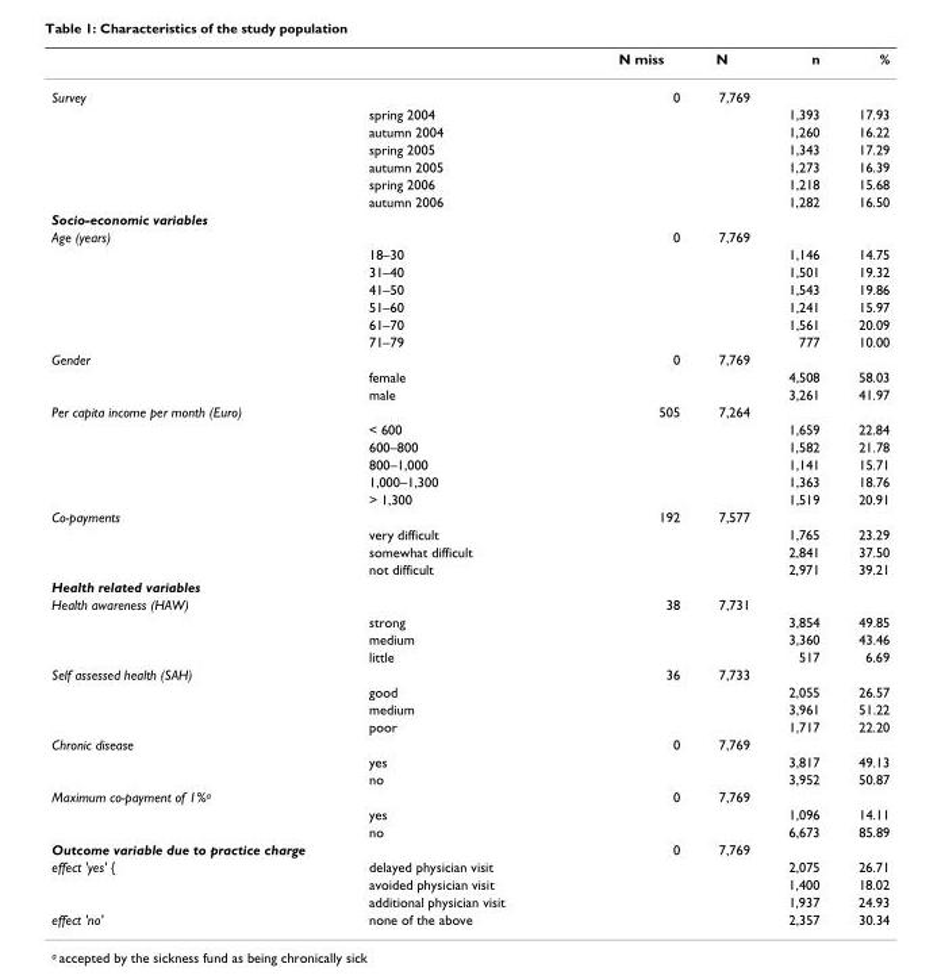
<table><thead><tr><td></td><td></td><td>N miss</td><td>N</td><td>n</td><td>%</td></tr></thead><tbody><tr><td rowspan="7">Survey</td><td></td><td>0</td><td>7,769</td><td></td><td></td></tr><tr><td>spring 2004</td><td></td><td></td><td>1,393</td><td>17.93</td></tr><tr><td>autumn 2004</td><td></td><td></td><td>1,260</td><td>16.22</td></tr><tr><td>spring 2005</td><td></td><td></td><td>1,343</td><td>17.29</td></tr><tr><td>autumn 2005</td><td></td><td></td><td>1,273</td><td>16.39</td></tr><tr><td>spring 2006</td><td></td><td></td><td>1,218</td><td>15.68</td></tr><tr><td>autumn 2006</td><td></td><td></td><td>1,282</td><td>16.50</td></tr><tr><td colspan="6">Socio-economic variables</td></tr><tr><td rowspan="7">Age (years)</td><td></td><td>0</td><td>7,769</td><td></td><td></td></tr><tr><td>18–30</td><td></td><td></td><td>1,146</td><td>14.75</td></tr><tr><td>31–40</td><td></td><td></td><td>1,501</td><td>19.32</td></tr><tr><td>41–50</td><td></td><td></td><td>1,543</td><td>19.86</td></tr><tr><td>51–60</td><td></td><td></td><td>1,241</td><td>15.97</td></tr><tr><td>61–70</td><td></td><td></td><td>1,561</td><td>20.09</td></tr><tr><td>71–79</td><td></td><td></td><td>777</td><td>10.00</td></tr><tr><td rowspan="3">Gender</td><td></td><td>0</td><td>7,769</td><td></td><td></td></tr><tr><td>female</td><td></td><td></td><td>4,508</td><td>58.03</td></tr><tr><td>male</td><td></td><td></td><td>3,261</td><td>41.97</td></tr><tr><td rowspan="6">Per capita income per month (Euro)</td><td></td><td>505</td><td>7,264</td><td></td><td></td></tr><tr><td>&lt; 600</td><td></td><td></td><td>1,659</td><td>22.84</td></tr><tr><td>600–800</td><td></td><td></td><td>1,582</td><td>21.78</td></tr><tr><td>800–1,000</td><td></td><td></td><td>1,141</td><td>15.71</td></tr><tr><td>1,000–1,300</td><td></td><td></td><td>1,363</td><td>18.76</td></tr><tr><td>&gt; 1,300</td><td></td><td></td><td>1,519</td><td>20.91</td></tr><tr><td rowspan="4">Co-payments</td><td></td><td>192</td><td>7,577</td><td></td><td></td></tr><tr><td>very difficult</td><td></td><td></td><td>1,765</td><td>23.29</td></tr><tr><td>somewhat difficult</td><td></td><td></td><td>2,841</td><td>37.50</td></tr><tr><td>not difficult</td><td></td><td></td><td>2,971</td><td>39.21</td></tr><tr><td colspan="6">Health related variables</td></tr><tr><td rowspan="4">Health awareness (HAW)</td><td></td><td>38</td><td>7,731</td><td></td><td></td></tr><tr><td>strong</td><td></td><td></td><td>3,854</td><td>49.85</td></tr><tr><td>medium</td><td></td><td></td><td>3,360</td><td>43.46</td></tr><tr><td>little</td><td></td><td></td><td>517</td><td>6.69</td></tr><tr><td rowspan="4">Self assessed health (SAH)</td><td></td><td>36</td><td>7,733</td><td></td><td></td></tr><tr><td>good</td><td></td><td></td><td>2,055</td><td>26.57</td></tr><tr><td>medium</td><td></td><td></td><td>3,961</td><td>51.22</td></tr><tr><td>poor</td><td></td><td></td><td>1,717</td><td>22.20</td></tr><tr><td rowspan="3">Chronic disease</td><td></td><td>0</td><td>7,769</td><td></td><td></td></tr><tr><td>yes</td><td></td><td></td><td>3,817</td><td>49.13</td></tr><tr><td>no</td><td></td><td></td><td>3,952</td><td>50.87</td></tr><tr><td rowspan="3">Maximum co-payment of 1%<sup>a</sup></td><td></td><td>0</td><td>7,769</td><td></td><td></td></tr><tr><td>yes</td><td></td><td></td><td>1,096</td><td>14.11</td></tr><tr><td>no</td><td></td><td></td><td>6,673</td><td>85.89</td></tr><tr><td colspan="2">Outcome variable due to practice charge</td><td>0</td><td>7,769</td><td></td><td></td></tr><tr><td rowspan="3">effect &#x27;yes&#x27; {</td><td>delayed physician visit</td><td></td><td></td><td>2,075</td><td>26.71</td></tr><tr><td>avoided physician visit</td><td></td><td></td><td>1,400</td><td>18.02</td></tr><tr><td>additional physician visit</td><td></td><td></td><td>1,937</td><td>24.93</td></tr><tr><td>effect &#x27;no&#x27;</td><td>none of the above</td><td></td><td></td><td>2,357</td><td>30.34</td></tr></tbody></table>